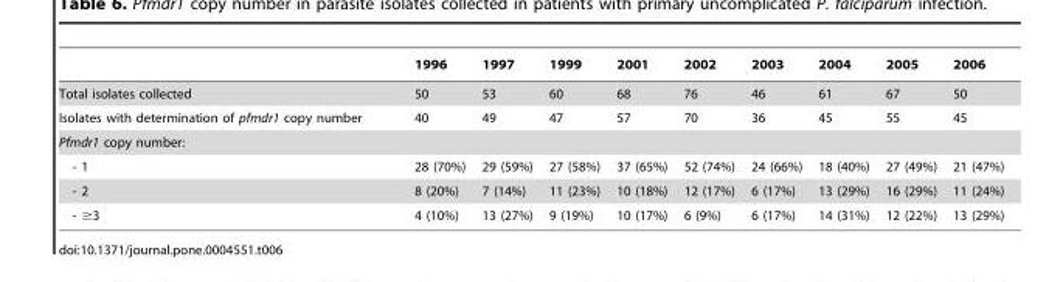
<table><thead><tr><td></td><td>1996</td><td>1997</td><td>1999</td><td>2001</td><td>2002</td><td>2003</td><td>2004</td><td>2005</td><td>2006</td></tr></thead><tbody><tr><td>Total isolates collected</td><td>50</td><td>53</td><td>60</td><td>68</td><td>76</td><td>46</td><td>61</td><td>67</td><td>50</td></tr><tr><td>Isolates with determination of pfmdr1 copy number</td><td>40</td><td>49</td><td>47</td><td>57</td><td>70</td><td>36</td><td>45</td><td>55</td><td>45</td></tr><tr><td colspan="10">Pfmdr1 copy number:</td></tr><tr><td>- 1</td><td>28 (70%)</td><td>29 (59%)</td><td>27 (58%)</td><td>37 (65%)</td><td>52 (74%)</td><td>24 (66%)</td><td>18 (40%)</td><td>27 (49%)</td><td>21 (47%)</td></tr><tr><td>- 2</td><td>8 (20%)</td><td>7 (14%)</td><td>11 (23%)</td><td>10 (18%)</td><td>12 (17%)</td><td>6 (17%)</td><td>13 (29%)</td><td>16 (29%)</td><td>11 (24%)</td></tr><tr><td>- ≥3</td><td>4 (10%)</td><td>13 (27%)</td><td>9 (19%)</td><td>10 (17%)</td><td>6 (9%)</td><td>6 (17%)</td><td>14 (31%)</td><td>12 (22%)</td><td>13 (29%)</td></tr></tbody></table>